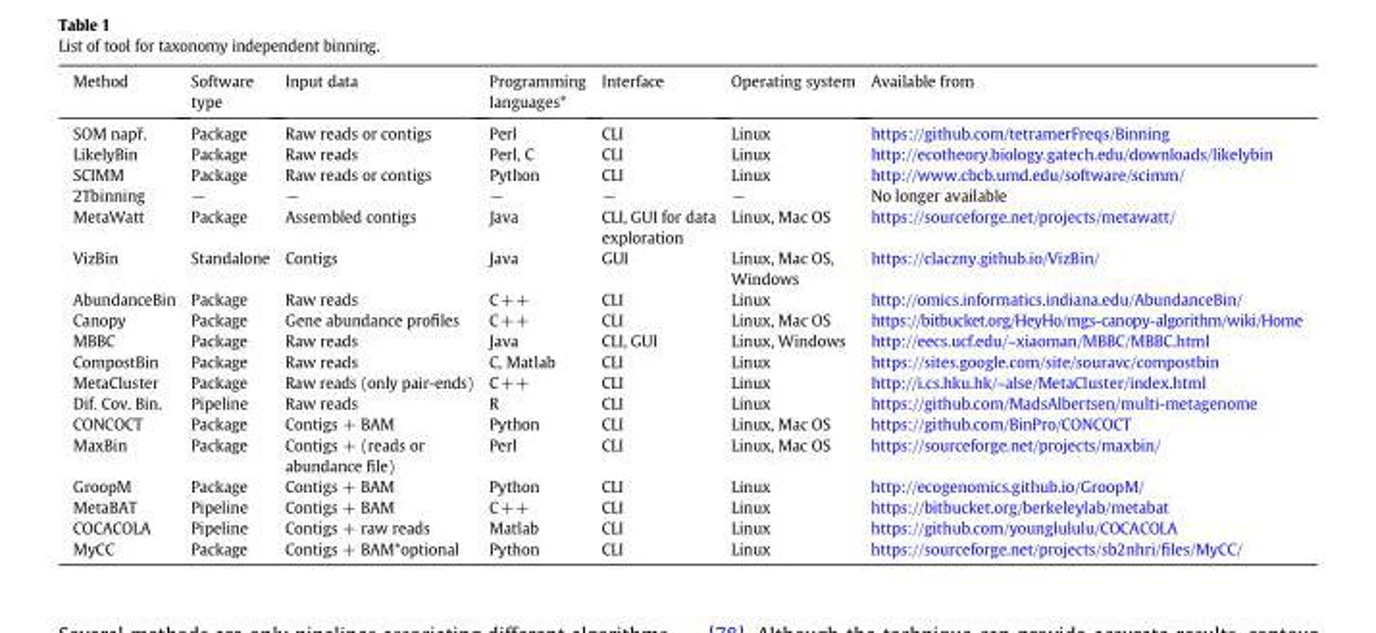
<table><thead><tr><td>Method</td><td>Software type</td><td>Input data</td><td>Programming languages*</td><td>Interface</td><td>Operating system</td><td>Available from</td></tr></thead><tbody><tr><td>SOM např.</td><td>Package</td><td>Raw reads or contigs</td><td>Perl</td><td>CLI</td><td>Linux</td><td>https://github.com/tetramerFreqs/Binning</td></tr><tr><td>LikelyBin</td><td>Package</td><td>Raw reads</td><td>Perl, C</td><td>CLI</td><td>Linux</td><td>http://ecotheory.biology.gatech.edu/downloads/likelybin</td></tr><tr><td>SCIMM</td><td>Package</td><td>Raw reads or contigs</td><td>Python</td><td>CLI</td><td>Linux</td><td>http://www.cbcb.umd.edu/software/scimm/</td></tr><tr><td>2Tbinning</td><td>−</td><td>−</td><td>−</td><td>−</td><td>−</td><td>No longer available</td></tr><tr><td>MetaWatt</td><td>Package</td><td>Assembled contigs</td><td>Java</td><td>CLI, GUI for data exploration</td><td>Linux, Mac OS</td><td>https://sourceforge.net/projects/metawatt/</td></tr><tr><td>VizBin</td><td>Standalone</td><td>Contigs</td><td>Java</td><td>GUI</td><td>Linux, Mac OS, Windows</td><td>https://claczny.github.io/VizBin/</td></tr><tr><td>AbundanceBin</td><td>Package</td><td>Raw reads</td><td>C++</td><td>CLI</td><td>Linux</td><td>http://omics.informatics.indiana.edu/AbundanceBin/</td></tr><tr><td>Canopy</td><td>Package</td><td>Gene abundance profiles</td><td>C++</td><td>CLI</td><td>Linux, Mac OS</td><td>https://bitbucket.org/HeyHo/mgs-canopy-algorithm/wiki/Home</td></tr><tr><td>MBBC</td><td>Package</td><td>Raw reads</td><td>Java</td><td>CLI, GUI</td><td>Linux, Windows</td><td>http://eecs.ucf.edu/~xiaoman/MBBC/MBBC.html</td></tr><tr><td>CompostBin</td><td>Package</td><td>Raw reads</td><td>C, Matlab</td><td>CLI</td><td>Linux</td><td>https://sites.google.com/site/souravc/compostbin</td></tr><tr><td>MetaCluster</td><td>Package</td><td>Raw reads (only pair-ends)</td><td>C++</td><td>CLI</td><td>Linux</td><td>http://i.cs.hku.hk/~alse/MetaCluster/index.html</td></tr><tr><td>Dif. Cov. Bin.</td><td>Pipeline</td><td>Raw reads</td><td>R</td><td>CLI</td><td>Linux</td><td>https://github.com/MadsAlbertsen/multi-metagenome</td></tr><tr><td>CONCOCT</td><td>Package</td><td>Contigs + BAM</td><td>Python</td><td>CLI</td><td>Linux, Mac OS</td><td>https://github.com/BinPro/CONCOCT</td></tr><tr><td>MaxBin</td><td>Package</td><td>Contigs + (reads or abundance file)</td><td>Perl</td><td>CLI</td><td>Linux, Mac OS</td><td>https://sourceforge.net/projects/maxbin/</td></tr><tr><td>GroopM</td><td>Package</td><td>Contigs + BAM</td><td>Python</td><td>CLI</td><td>Linux</td><td>http://ecogenomics.github.io/GroopM/</td></tr><tr><td>MetaBAT</td><td>Pipeline</td><td>Contigs + BAM</td><td>C++</td><td>CLI</td><td>Linux</td><td>https://bitbucket.org/berkeleylab/metabat</td></tr><tr><td>COCACOLA</td><td>Pipeline</td><td>Contigs + raw reads</td><td>Matlab</td><td>CLI</td><td>Linux</td><td>https://github.com/younglululu/COCACOLA</td></tr><tr><td>MyCC</td><td>Package</td><td>Contigs + BAM*optional</td><td>Python</td><td>CLI</td><td>Linux</td><td>https://sourceforge.net/projects/sb2nhri/files/MyCC/</td></tr></tbody></table>